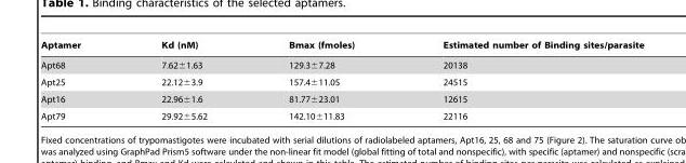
<table><thead><tr><td>Aptamer</td><td>Kd (nM)</td><td>Bmax (fmoles)</td><td>Estimated number of Binding sites/parasite</td></tr></thead><tbody><tr><td>Apt68</td><td>7.62±1.63</td><td>129.3±7.28</td><td>20138</td></tr><tr><td>Apt25</td><td>22.12±3.9</td><td>157.4±11.05</td><td>24515</td></tr><tr><td>Apt16</td><td>22.96±1.6</td><td>81.77±23.01</td><td>12615</td></tr><tr><td>Apt79</td><td>29.92±5.62</td><td>142.10±11.83</td><td>22116</td></tr></tbody></table>